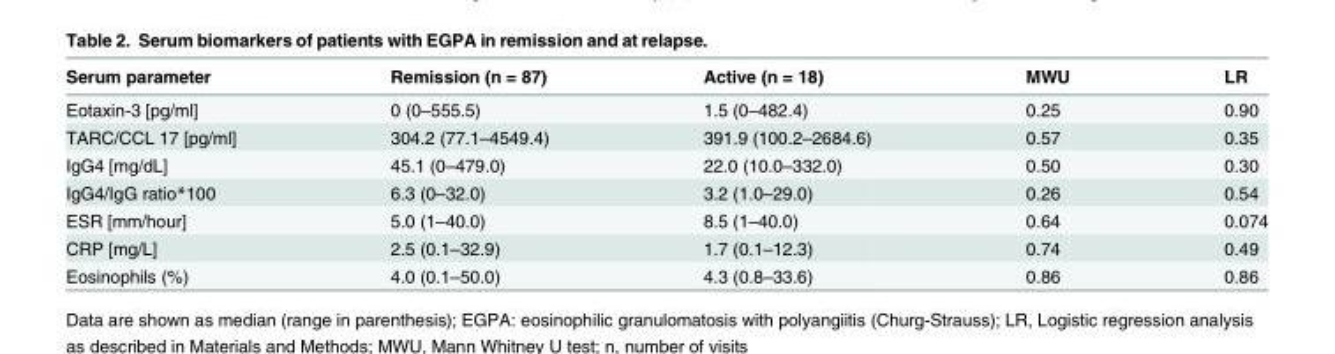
<table><thead><tr><td>Serum parameter</td><td>Remission (n = 87)</td><td>Active (n = 18)</td><td>MWU</td><td>LR</td></tr></thead><tbody><tr><td>Eotaxin-3 [pg/ml]</td><td>0 (0–555.5)</td><td>1.5 (0–482.4)</td><td>0.25</td><td>0.90</td></tr><tr><td>TARC/CCL 17 [pg/ml]</td><td>304.2 (77.1–4549.4)</td><td>391.9 (100.2–2684.6)</td><td>0.57</td><td>0.35</td></tr><tr><td>IgG4 [mg/dL]</td><td>45.1 (0–479.0)</td><td>22.0 (10.0–332.0)</td><td>0.50</td><td>0.30</td></tr><tr><td>IgG4/IgG ratio*100</td><td>6.3 (0–32.0)</td><td>3.2 (1.0–29.0)</td><td>0.26</td><td>0.54</td></tr><tr><td>ESR [mm/hour]</td><td>5.0 (1–40.0)</td><td>8.5 (1–40.0)</td><td>0.64</td><td>0.074</td></tr><tr><td>CRP [mg/L]</td><td>2.5 (0.1–32.9)</td><td>1.7 (0.1–12.3)</td><td>0.74</td><td>0.49</td></tr><tr><td>Eosinophils (%)</td><td>4.0 (0.1–50.0)</td><td>4.3 (0.8–33.6)</td><td>0.86</td><td>0.86</td></tr></tbody></table>